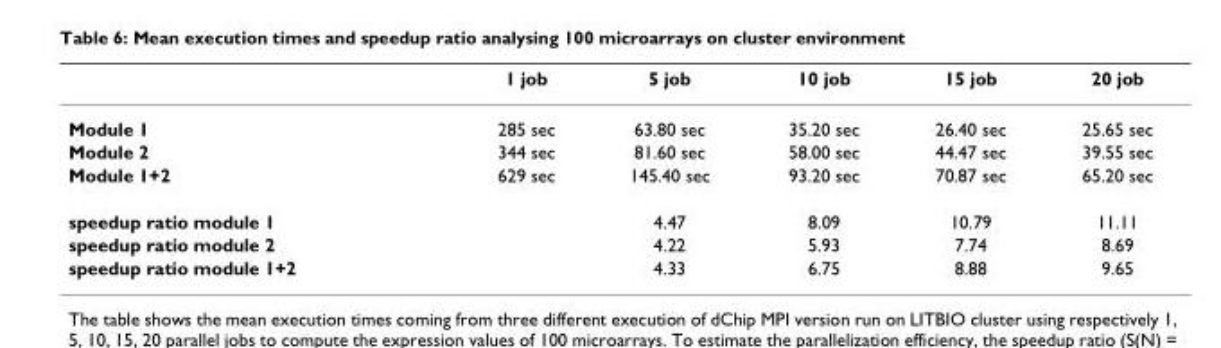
<table><thead><tr><td></td><td>1 job</td><td>5 job</td><td>10 job</td><td>15 job</td><td>20 job</td></tr></thead><tbody><tr><td>Module 1</td><td>285 sec</td><td>63.80 sec</td><td>35.20 sec</td><td>26.40 sec</td><td>25.65 sec</td></tr><tr><td>Module 2</td><td>344 sec</td><td>81.60 sec</td><td>58.00 sec</td><td>44.47 sec</td><td>39.55 sec</td></tr><tr><td>Module 1+2</td><td>629 sec</td><td>145.40 sec</td><td>93.20 sec</td><td>70.87 sec</td><td>65.20 sec</td></tr><tr><td>speedup ratio module 1</td><td></td><td>4.47</td><td>8.09</td><td>10.79</td><td>11.11</td></tr><tr><td>speedup ratio module 2</td><td></td><td>4.22</td><td>5.93</td><td>7.74</td><td>8.69</td></tr><tr><td>speedup ratio module 1+2</td><td></td><td>4.33</td><td>6.75</td><td>8.88</td><td>9.65</td></tr></tbody></table>